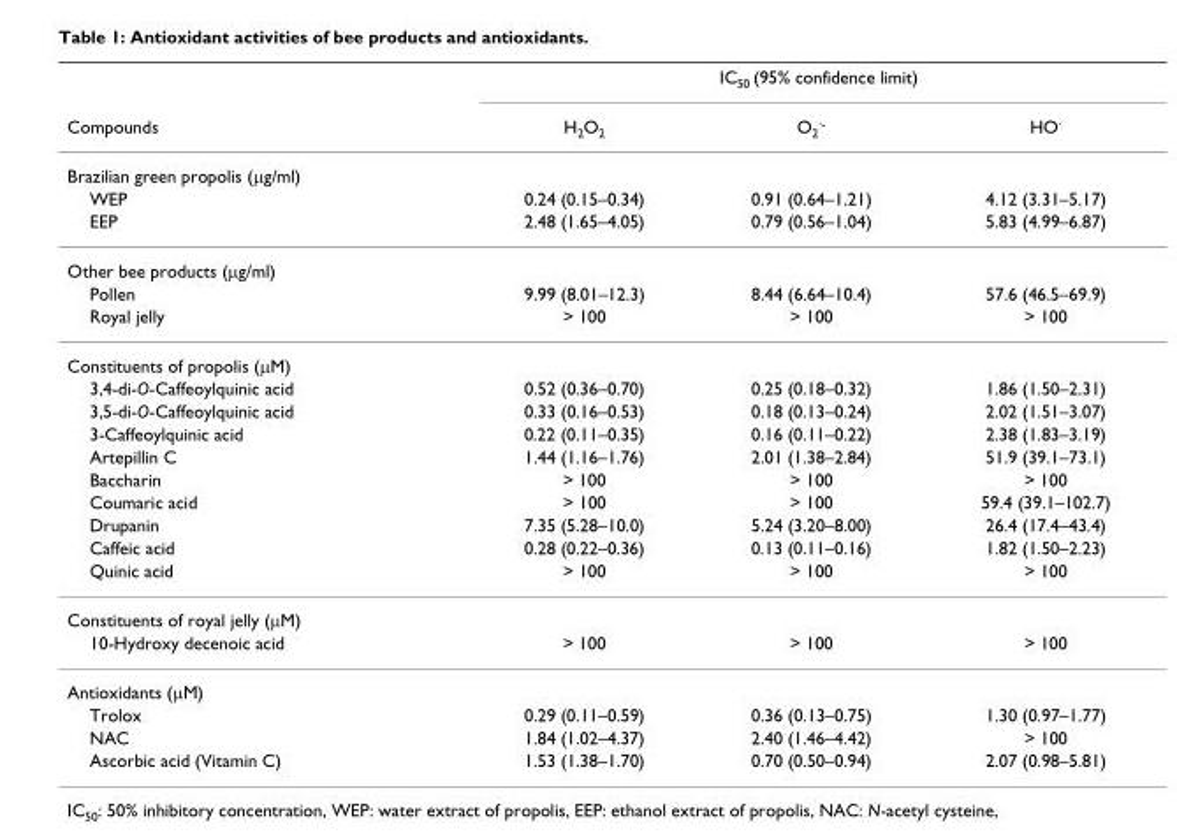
<table><thead><tr><td rowspan="2">Compounds</td><td colspan="3">IC<sub>50</sub> (95% confidence limit)</td></tr><tr><td>H<sub>2</sub>O<sub>2</sub></td><td>O<sub>2</sub><sup>·-</sup></td><td>HO<sup>·</sup></td></tr></thead><tbody><tr><td colspan="4">Brazilian green propolis (μg/ml)</td></tr><tr><td>WEP</td><td>0.24 (0.15–0.34)</td><td>0.91 (0.64–1.21)</td><td>4.12 (3.31–5.17)</td></tr><tr><td>EEP</td><td>2.48 (1.65–4.05)</td><td>0.79 (0.56–1.04)</td><td>5.83 (4.99–6.87)</td></tr><tr><td colspan="4">Other bee products (μg/ml)</td></tr><tr><td>Pollen</td><td>9.99 (8.01–12.3)</td><td>8.44 (6.64–10.4)</td><td>57.6 (46.5–69.9)</td></tr><tr><td>Royal jelly</td><td>&gt; 100</td><td>&gt; 100</td><td>&gt; 100</td></tr><tr><td colspan="4">Constituents of propolis (μM)</td></tr><tr><td>3,4-di-O-Caffeoylquinic acid</td><td>0.52 (0.36–0.70)</td><td>0.25 (0.18–0.32)</td><td>1.86 (1.50–2.31)</td></tr><tr><td>3,5-di-O-Caffeoylquinic acid</td><td>0.33 (0.16–0.53)</td><td>0.18 (0.13–0.24)</td><td>2.02 (1.51–3.07)</td></tr><tr><td>3-Caffeoylquinic acid</td><td>0.22 (0.11–0.35)</td><td>0.16 (0.11–0.22)</td><td>2.38 (1.83–3.19)</td></tr><tr><td>Artepillin C</td><td>1.44 (1.16–1.76)</td><td>2.01 (1.38–2.84)</td><td>51.9 (39.1–73.1)</td></tr><tr><td>Baccharin</td><td>&gt; 100</td><td>&gt; 100</td><td>&gt; 100</td></tr><tr><td>Coumaric acid</td><td>&gt; 100</td><td>&gt; 100</td><td>59.4 (39.1–102.7)</td></tr><tr><td>Drupanin</td><td>7.35 (5.28–10.0)</td><td>5.24 (3.20–8.00)</td><td>26.4 (17.4–43.4)</td></tr><tr><td>Caffeic acid</td><td>0.28 (0.22–0.36)</td><td>0.13 (0.11–0.16)</td><td>1.82 (1.50–2.23)</td></tr><tr><td>Quinic acid</td><td>&gt; 100</td><td>&gt; 100</td><td>&gt; 100</td></tr><tr><td colspan="4">Constituents of royal jelly (μM)</td></tr><tr><td>10-Hydroxy decenoic acid</td><td>&gt; 100</td><td>&gt; 100</td><td>&gt; 100</td></tr><tr><td colspan="4">Antioxidants (μM)</td></tr><tr><td>Trolox</td><td>0.29 (0.11–0.59)</td><td>0.36 (0.13–0.75)</td><td>1.30 (0.97–1.77)</td></tr><tr><td>NAC</td><td>1.84 (1.02–4.37)</td><td>2.40 (1.46–4.42)</td><td>&gt; 100</td></tr><tr><td>Ascorbic acid (Vitamin C)</td><td>1.53 (1.38–1.70)</td><td>0.70 (0.50–0.94)</td><td>2.07 (0.98–5.81)</td></tr></tbody></table>